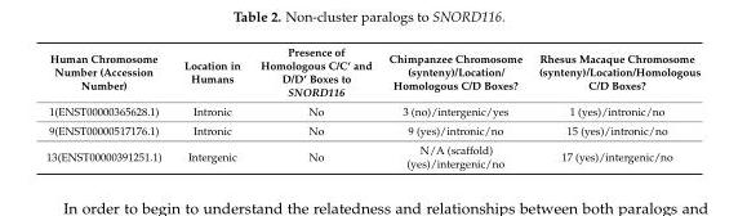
<table><thead><tr><td>Human Chromosome Number (Accession Number)</td><td>Location in Humans</td><td>Presence of Homologous C/C’ and D/D’ Boxes to SNORD116</td><td>Chimpanzee Chromosome (synteny)/Location/ Homologous C/D Boxes?</td><td>Rhesus Macaque Chromosome (synteny)/Location/Homologous C/D Boxes?</td></tr></thead><tbody><tr><td>1(ENST00000365628.1)</td><td>Intronic</td><td>No</td><td>3 (no)/intergenic/yes</td><td>1 (yes)/intronic/no</td></tr><tr><td>9(ENST00000517176.1)</td><td>Intronic</td><td>No</td><td>9 (yes)/intronic/no</td><td>15 (yes)/intronic/no</td></tr><tr><td>13(ENST00000391251.1)</td><td>Intergenic</td><td>No</td><td>N/A (scaffold) (yes)/intergenic/no</td><td>17 (yes)/intergenic/no</td></tr></tbody></table>